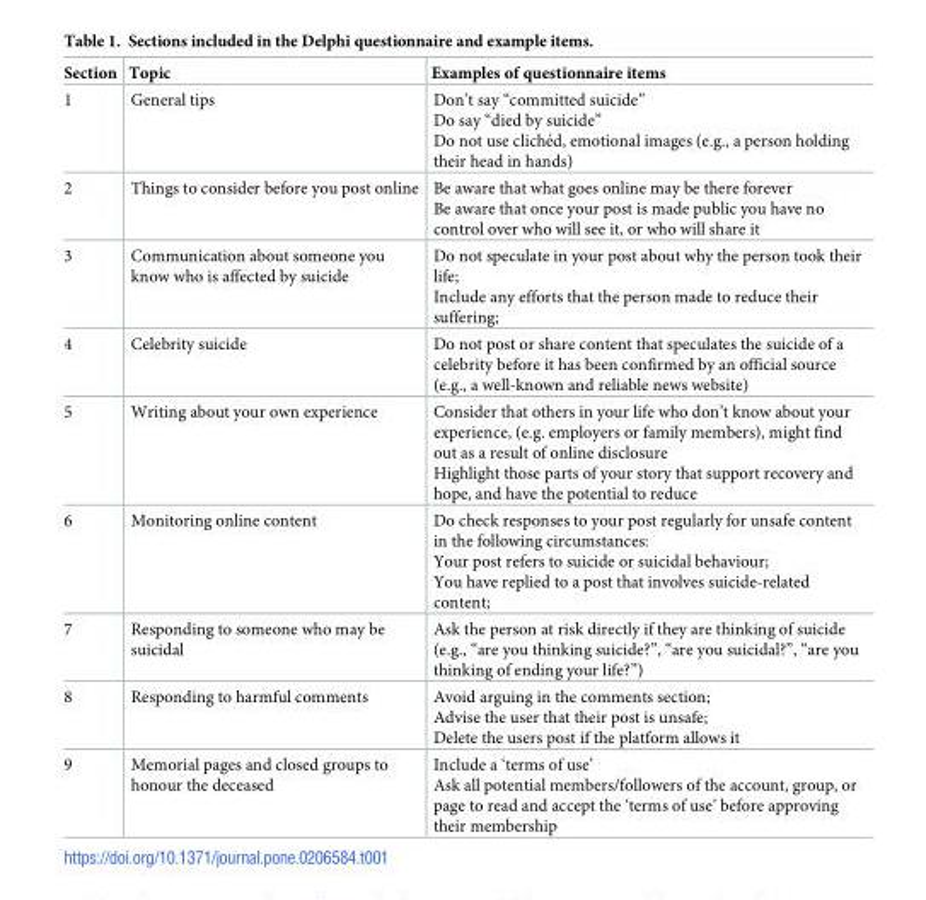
<table><thead><tr><td>Section</td><td>Topic</td><td>Examples of questionnaire items</td></tr></thead><tbody><tr><td>1</td><td>General tips</td><td>Don’t say “committed suicide” Do say “died by suicide” Do not use cliche´d, emotional images (e.g., a person holding their head in hands)</td></tr><tr><td>2</td><td>Things to consider before you post online</td><td>Be aware that what goes online may be there forever Be aware that once your post is made public you have no control over who will see it, or who will share it</td></tr><tr><td>3</td><td>Communication about someone you know who is affected by suicide</td><td>Do not speculate in your post about why the person took their life; Include any efforts that the person made to reduce their suffering;</td></tr><tr><td>4</td><td>Celebrity suicide</td><td>Do not post or share content that speculates the suicide of a celebrity before it has been confirmed by an official source (e.g., a well-known and reliable news website)</td></tr><tr><td>5</td><td>Writing about your own experience</td><td>Consider that others in your life who don’t know about your experience, (e.g. employers or family members), might find out as a result of online disclosure Highlight those parts of your story that support recovery and hope, and have the potential to reduce</td></tr><tr><td>6</td><td>Monitoring online content</td><td>Do check responses to your post regularly for unsafe content in the following circumstances: Your post refers to suicide or suicidal behaviour; You have replied to a post that involves suicide-related content;</td></tr><tr><td>7</td><td>Responding to someone who may be suicidal</td><td>Ask the person at risk directly if they are thinking of suicide (e.g., “are you thinking suicide?”, “are you suicidal?”, “are you thinking of ending your life?”)</td></tr><tr><td>8</td><td>Responding to harmful comments</td><td>Avoid arguing in the comments section; Advise the user that their post is unsafe; Delete the users post if the platform allows it</td></tr><tr><td>9</td><td>Memorial pages and closed groups to honour the deceased</td><td>Include a ‘terms of use’ Ask all potential members/followers of the account, group, or page to read and accept the ‘terms of use’ before approving their membership</td></tr></tbody></table>